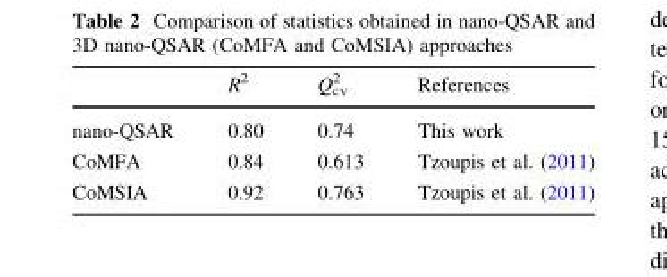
<table><thead><tr><td></td><td>R<sup>2</sup></td><td>Q<sub>cv</sub> <sup>2</sup></td><td>References</td></tr></thead><tbody><tr><td>nano-QSAR</td><td>0.80</td><td>0.74</td><td>This work</td></tr><tr><td>CoMFA</td><td>0.84</td><td>0.613</td><td>Tzoupis et al. (2011)</td></tr><tr><td>CoMSIA</td><td>0.92</td><td>0.763</td><td>Tzoupis et al. (2011)</td></tr></tbody></table>